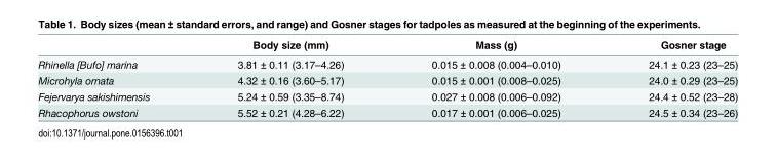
<table><thead><tr><td></td><td>Body size (mm)</td><td>Mass (g)</td><td>Gosner stage</td></tr></thead><tbody><tr><td>Rhinella [Bufo] marina</td><td>3.81 ± 0.11 (3.17–4.26)</td><td>0.015 ± 0.008 (0.004–0.010)</td><td>24.1 ± 0.23 (23–25)</td></tr><tr><td>Microhyla ornata</td><td>4.32 ± 0.16 (3.60–5.17)</td><td>0.015 ± 0.001 (0.008–0.025)</td><td>24.0 ± 0.29 (23–25)</td></tr><tr><td>Fejervarya sakishimensis</td><td>5.24 ± 0.59 (3.35–8.74)</td><td>0.027 ± 0.008 (0.006–0.092)</td><td>24.4 ± 0.52 (23–28)</td></tr><tr><td>Rhacophorus owstoni</td><td>5.52 ± 0.21 (4.28–6.22)</td><td>0.017 ± 0.001 (0.006–0.025)</td><td>24.5 ± 0.34 (23–26)</td></tr></tbody></table>